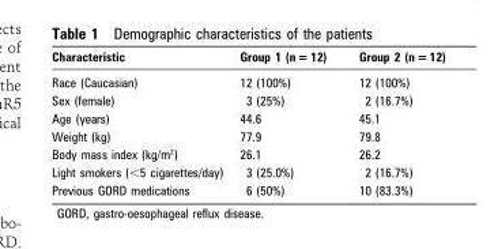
<table><thead><tr><td>Characteristic</td><td>Group 1 (n = 12)</td><td>Group 2 (n = 12)</td></tr></thead><tbody><tr><td>Race (Caucasian)</td><td>12 (100%)</td><td>12 (100%)</td></tr><tr><td>Sex (female)</td><td>3 (25%)</td><td>2 (16.7%)</td></tr><tr><td>Age (years)</td><td>44.6</td><td>45.1</td></tr><tr><td>Weight (kg)</td><td>77.9</td><td>79.8</td></tr><tr><td>Body mass index (kg/m<sup>2</sup>)</td><td>26.1</td><td>26.2</td></tr><tr><td>Light smokers (&lt;5 cigarettes/day)</td><td>3 (25.0%)</td><td>2 (16.7%)</td></tr><tr><td>Previous GORD medications</td><td>6 (50%)</td><td>10 (83.3%)</td></tr></tbody></table>